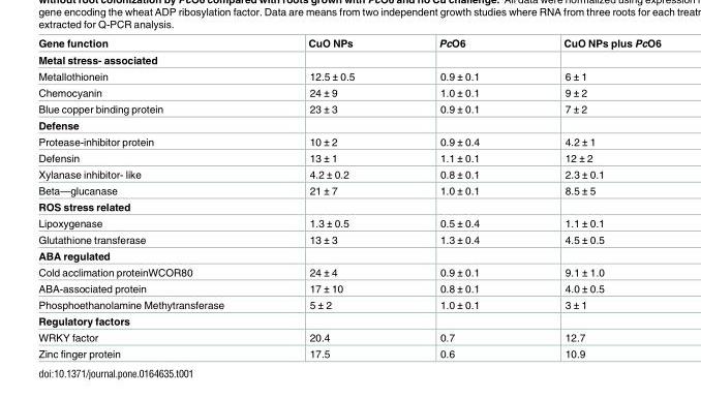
<table><thead><tr><td>Gene function</td><td>CuO NPs</td><td>PcO6</td><td>CuO NPs plus PcO6</td></tr></thead><tbody><tr><td colspan="4">Metal stress- associated</td></tr><tr><td>Metallothionein</td><td>12.5 ± 0.5</td><td>0.9 ± 0.1</td><td>6 ± 1</td></tr><tr><td>Chemocyanin</td><td>24 ± 9</td><td>1.0 ± 0.1</td><td>9 ± 2</td></tr><tr><td>Blue copper binding protein</td><td>23 ± 3</td><td>0.9 ± 0.1</td><td>7 ± 2</td></tr><tr><td colspan="4">Defense</td></tr><tr><td>Protease-inhibitor protein</td><td>10 ± 2</td><td>0.9 ± 0.4</td><td>4.2 ± 1</td></tr><tr><td>Defensin</td><td>13 ± 1</td><td>1.1 ± 0.1</td><td>12 ± 2</td></tr><tr><td>Xylanase inhibitor- like</td><td>4.2 ± 0.2</td><td>0.8 ± 0.1</td><td>2.3 ± 0.1</td></tr><tr><td>Beta—glucanase</td><td>21 ± 7</td><td>1.0 ± 0.1</td><td>8.5 ± 5</td></tr><tr><td colspan="4">ROS stress related</td></tr><tr><td>Lipoxygenase</td><td>1.3 ± 0.5</td><td>0.5 ± 0.4</td><td>1.1 ± 0.1</td></tr><tr><td>Glutathione transferase</td><td>13 ± 3</td><td>1.3 ± 0.4</td><td>4.5 ± 0.5</td></tr><tr><td colspan="4">ABA regulated</td></tr><tr><td>Cold acclimation proteinWCOR80</td><td>24 ± 4</td><td>0.9 ± 0.1</td><td>9.1 ± 1.0</td></tr><tr><td>ABA-associated protein</td><td>17 ± 10</td><td>0.8 ± 0.1</td><td>4.0 ± 0.5</td></tr><tr><td>Phosphoethanolamine Methytransferase</td><td>5 ± 2</td><td>1.0 ± 0.1</td><td>3 ± 1</td></tr><tr><td colspan="4">Regulatory factors</td></tr><tr><td>WRKY factor</td><td>20.4</td><td>0.7</td><td>12.7</td></tr><tr><td>Zinc finger protein</td><td>17.5</td><td>0.6</td><td>10.9</td></tr></tbody></table>